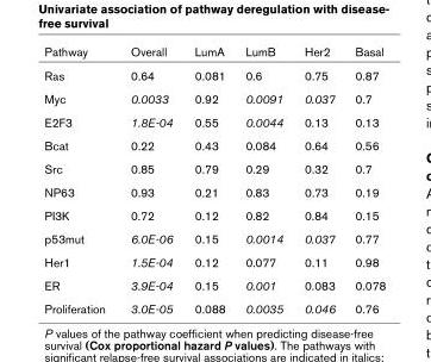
<table><thead><tr><td>Pathway</td><td>Overall</td><td>LumA</td><td>LumB</td><td>Her2</td><td>Basal</td></tr></thead><tbody><tr><td>Ras</td><td>0.64</td><td>0.081</td><td>0.6</td><td>0.75</td><td>0.87</td></tr><tr><td>Myc</td><td>0.0033</td><td>0.92</td><td>0.0091</td><td>0.037</td><td>0.7</td></tr><tr><td>E2F3</td><td>1.8E-04</td><td>0.55</td><td>0.0044</td><td>0.13</td><td>0.13</td></tr><tr><td>Bcat</td><td>0.22</td><td>0.43</td><td>0.084</td><td>0.64</td><td>0.56</td></tr><tr><td>Src</td><td>0.85</td><td>0.79</td><td>0.29</td><td>0.32</td><td>0.7</td></tr><tr><td>NP63</td><td>0.93</td><td>0.21</td><td>0.83</td><td>0.73</td><td>0.19</td></tr><tr><td>PI3K</td><td>0.72</td><td>0.12</td><td>0.82</td><td>0.84</td><td>0.15</td></tr><tr><td>p53mut</td><td>6.0E-06</td><td>0.15</td><td>0.0014</td><td>0.037</td><td>0.77</td></tr><tr><td>Her1</td><td>1.5E-04</td><td>0.12</td><td>0.077</td><td>0.11</td><td>0.98</td></tr><tr><td>ER</td><td>3.9E-04</td><td>0.15</td><td>0.001</td><td>0.083</td><td>0.078</td></tr><tr><td>Proliferation</td><td>3.0E-05</td><td>0.088</td><td>0.0035</td><td>0.046</td><td>0.76</td></tr></tbody></table>